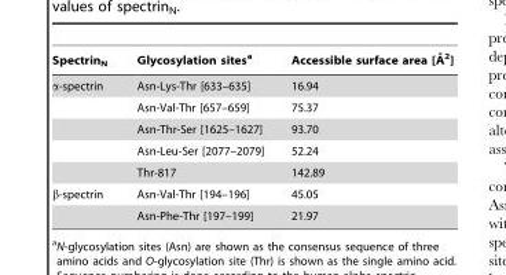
<table><thead><tr><td>Spectrin<sub>N</sub></td><td>Glycosylation sites<sup>a</sup></td><td>Accessible surface area [A˚ 2]</td></tr></thead><tbody><tr><td rowspan="5">α-spectrin</td><td>Asn-Lys-Thr [633–635]</td><td>16.94</td></tr><tr><td>Asn-Val-Thr [657–659]</td><td>75.37</td></tr><tr><td>Asn-Thr-Ser [1625–1627]</td><td>93.70</td></tr><tr><td>Asn-Leu-Ser [2077–2079]</td><td>52.24</td></tr><tr><td>Thr-817</td><td>142.89</td></tr><tr><td rowspan="2">β-spectrin</td><td>Asn-Val-Thr [194–196]</td><td>45.05</td></tr><tr><td>Asn-Phe-Thr [197–199]</td><td>21.97</td></tr></tbody></table>